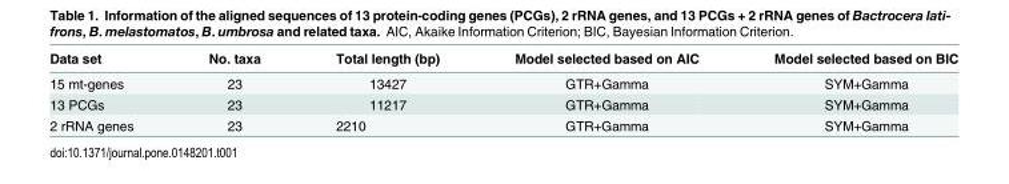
<table><thead><tr><td>Data set</td><td>No. taxa</td><td>Total length (bp)</td><td>Model selected based on AIC</td><td>Model selected based on BIC</td></tr></thead><tbody><tr><td>15 mt-genes</td><td>23</td><td>13427</td><td>GTR+Gamma</td><td>SYM+Gamma</td></tr><tr><td>13 PCGs</td><td>23</td><td>11217</td><td>GTR+Gamma</td><td>SYM+Gamma</td></tr><tr><td>2 rRNA genes</td><td>23</td><td>2210</td><td>GTR+Gamma</td><td>SYM+Gamma</td></tr></tbody></table>